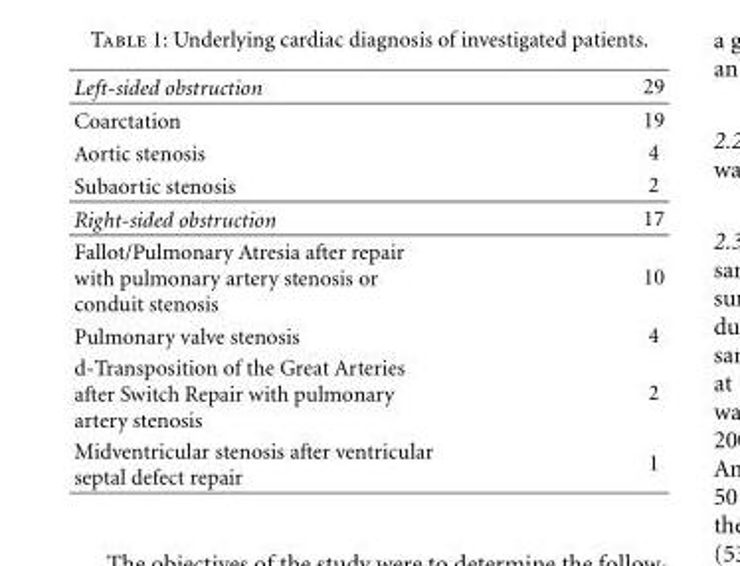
<table><tbody><tr><td>Left-sided obstruction</td><td>29</td></tr><tr><td>Coarctation</td><td>19</td></tr><tr><td>Aortic stenosis</td><td>4</td></tr><tr><td>Subaortic stenosis</td><td>2</td></tr><tr><td>Right-sided obstruction</td><td>17</td></tr><tr><td>Fallot/Pulmonary Atresia after repair with pulmonary artery stenosis or conduit stenosis</td><td>10</td></tr><tr><td>Pulmonary valve stenosis</td><td>4</td></tr><tr><td>d-Transposition of the Great Arteries after Switch Repair with pulmonary artery stenosis</td><td>2</td></tr><tr><td>Midventricular stenosis after ventricular septal defect repair</td><td>1</td></tr></tbody></table>